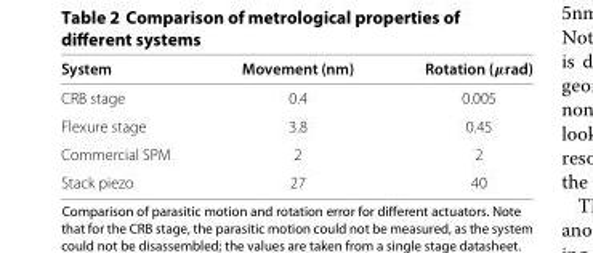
<table><thead><tr><td>System</td><td>Movement (nm)</td><td>Rotation (μrad)</td></tr></thead><tbody><tr><td>CRB stage</td><td>0.4</td><td>0.005</td></tr><tr><td>Flexure stage</td><td>3.8</td><td>0.45</td></tr><tr><td>Commercial SPM</td><td>2</td><td>2</td></tr><tr><td>Stack piezo</td><td>27</td><td>40</td></tr></tbody></table>